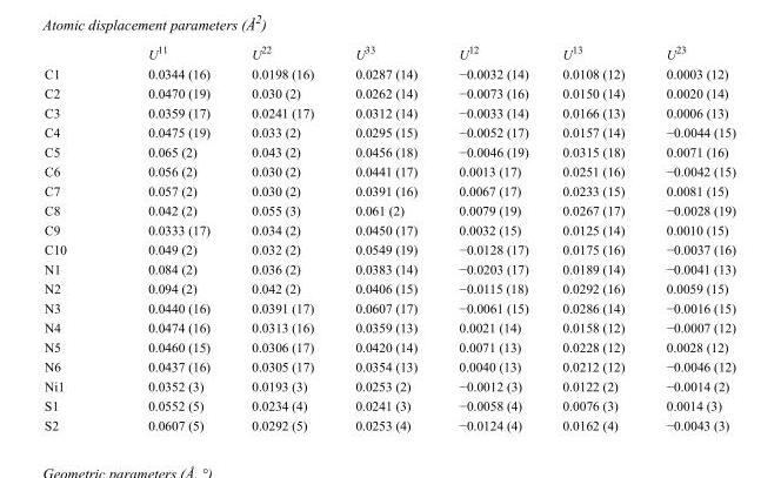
<table><thead><tr><td></td><td>U<sup>11</sup></td><td>U<sup>22</sup></td><td>U<sup>33</sup></td><td>U<sup>12</sup></td><td>U<sup>13</sup></td><td>U<sup>23</sup></td></tr></thead><tbody><tr><td>C1</td><td>0.0344 (16)</td><td>0.0198 (16)</td><td>0.0287 (14)</td><td>−0.0032 (14)</td><td>0.0108 (12)</td><td>0.0003 (12)</td></tr><tr><td>C2</td><td>0.0470 (19)</td><td>0.030 (2)</td><td>0.0262 (14)</td><td>−0.0073 (16)</td><td>0.0150 (14)</td><td>0.0020 (14)</td></tr><tr><td>C3</td><td>0.0359 (17)</td><td>0.0241 (17)</td><td>0.0312 (14)</td><td>−0.0033 (14)</td><td>0.0166 (13)</td><td>0.0006 (13)</td></tr><tr><td>C4</td><td>0.0475 (19)</td><td>0.033 (2)</td><td>0.0295 (15)</td><td>−0.0052 (17)</td><td>0.0157 (14)</td><td>−0.0044 (15)</td></tr><tr><td>C5</td><td>0.065 (2)</td><td>0.043 (2)</td><td>0.0456 (18)</td><td>−0.0046 (19)</td><td>0.0315 (18)</td><td>0.0071 (16)</td></tr><tr><td>C6</td><td>0.056 (2)</td><td>0.030 (2)</td><td>0.0441 (17)</td><td>0.0013 (17)</td><td>0.0251 (16)</td><td>−0.0042 (15)</td></tr><tr><td>C7</td><td>0.057 (2)</td><td>0.030 (2)</td><td>0.0391 (16)</td><td>0.0067 (17)</td><td>0.0233 (15)</td><td>0.0081 (15)</td></tr><tr><td>C8</td><td>0.042 (2)</td><td>0.055 (3)</td><td>0.061 (2)</td><td>0.0079 (19)</td><td>0.0267 (17)</td><td>−0.0028 (19)</td></tr><tr><td>C9</td><td>0.0333 (17)</td><td>0.034 (2)</td><td>0.0450 (17)</td><td>0.0032 (15)</td><td>0.0125 (14)</td><td>0.0010 (15)</td></tr><tr><td>C10</td><td>0.049 (2)</td><td>0.032 (2)</td><td>0.0549 (19)</td><td>−0.0128 (17)</td><td>0.0175 (16)</td><td>−0.0037 (16)</td></tr><tr><td>N1</td><td>0.084 (2)</td><td>0.036 (2)</td><td>0.0383 (14)</td><td>−0.0203 (17)</td><td>0.0189 (14)</td><td>−0.0041 (13)</td></tr><tr><td>N2</td><td>0.094 (2)</td><td>0.042 (2)</td><td>0.0406 (15)</td><td>−0.0115 (18)</td><td>0.0292 (16)</td><td>0.0059 (15)</td></tr><tr><td>N3</td><td>0.0440 (16)</td><td>0.0391 (17)</td><td>0.0607 (17)</td><td>−0.0061 (15)</td><td>0.0286 (14)</td><td>−0.0016 (15)</td></tr><tr><td>N4</td><td>0.0474 (16)</td><td>0.0313 (16)</td><td>0.0359 (13)</td><td>0.0021 (14)</td><td>0.0158 (12)</td><td>−0.0007 (12)</td></tr><tr><td>N5</td><td>0.0460 (15)</td><td>0.0306 (17)</td><td>0.0420 (14)</td><td>0.0071 (13)</td><td>0.0228 (12)</td><td>0.0028 (12)</td></tr><tr><td>N6</td><td>0.0437 (16)</td><td>0.0305 (17)</td><td>0.0354 (13)</td><td>0.0040 (13)</td><td>0.0212 (12)</td><td>−0.0046 (12)</td></tr><tr><td>Ni1</td><td>0.0352 (3)</td><td>0.0193 (3)</td><td>0.0253 (2)</td><td>−0.0012 (3)</td><td>0.0122 (2)</td><td>−0.0014 (2)</td></tr><tr><td>S1</td><td>0.0552 (5)</td><td>0.0234 (4)</td><td>0.0241 (3)</td><td>−0.0058 (4)</td><td>0.0076 (3)</td><td>0.0014 (3)</td></tr><tr><td>S2</td><td>0.0607 (5)</td><td>0.0292 (5)</td><td>0.0253 (4)</td><td>−0.0124 (4)</td><td>0.0162 (4)</td><td>−0.0043 (3)</td></tr></tbody></table>